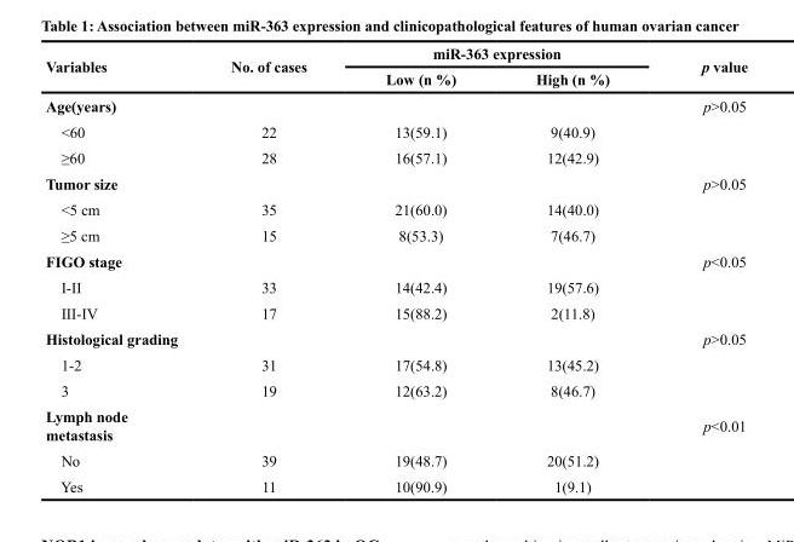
<table><thead><tr><td rowspan="2">Variables</td><td rowspan="2">No. of cases</td><td colspan="2">miR-363 expression</td><td rowspan="2">p value</td></tr><tr><td>Low (n %)</td><td>High (n %)</td></tr></thead><tbody><tr><td>Age(years)</td><td></td><td></td><td></td><td>p&gt;0.05</td></tr><tr><td>&lt;60</td><td>22</td><td>13(59.1)</td><td>9(40.9)</td><td></td></tr><tr><td>≥60</td><td>28</td><td>16(57.1)</td><td>12(42.9)</td><td></td></tr><tr><td>Tumor size</td><td></td><td></td><td></td><td>p&gt;0.05</td></tr><tr><td>&lt;5 cm</td><td>35</td><td>21(60.0)</td><td>14(40.0)</td><td></td></tr><tr><td>≥5 cm</td><td>15</td><td>8(53.3)</td><td>7(46.7)</td><td></td></tr><tr><td>FIGO stage</td><td></td><td></td><td></td><td>p&lt;0.05</td></tr><tr><td>I-II</td><td>33</td><td>14(42.4)</td><td>19(57.6)</td><td></td></tr><tr><td>III-IV</td><td>17</td><td>15(88.2)</td><td>2(11.8)</td><td></td></tr><tr><td>Histological grading</td><td></td><td></td><td></td><td>p&gt;0.05</td></tr><tr><td>1-2</td><td>31</td><td>17(54.8)</td><td>13(45.2)</td><td></td></tr><tr><td>3</td><td>19</td><td>12(63.2)</td><td>8(46.7)</td><td></td></tr><tr><td>Lymph node metastasis</td><td></td><td></td><td></td><td>p&lt;0.01</td></tr><tr><td>No</td><td>39</td><td>19(48.7)</td><td>20(51.2)</td><td></td></tr><tr><td>Yes</td><td>11</td><td>10(90.9)</td><td>1(9.1)</td><td></td></tr></tbody></table>